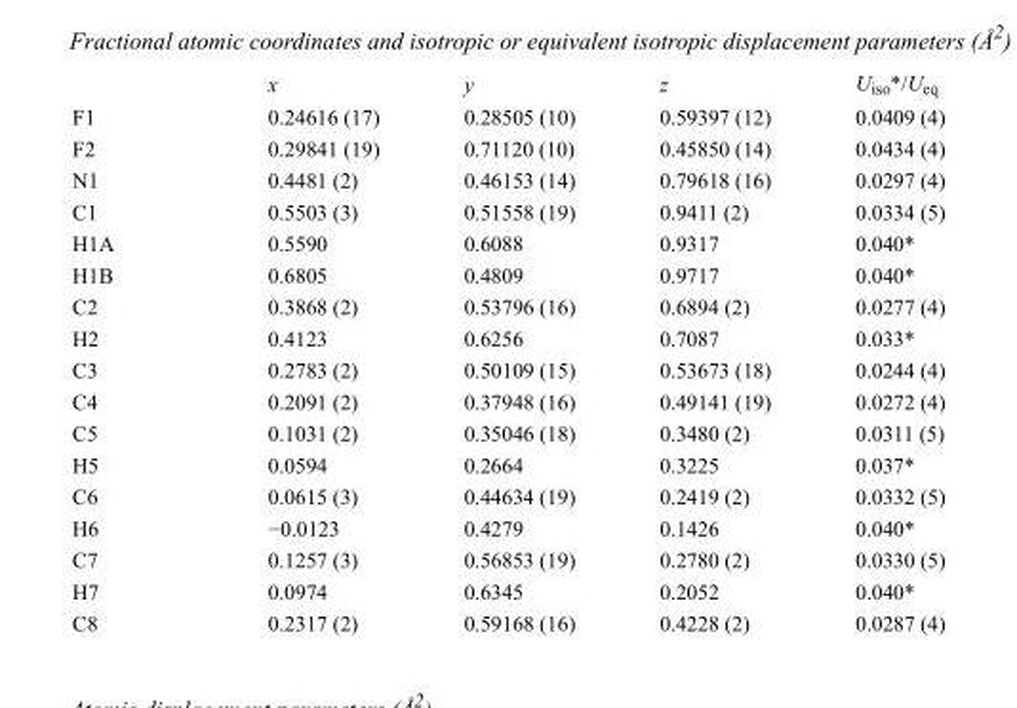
<table><thead><tr><td></td><td>x</td><td>y</td><td>z</td><td>U<sub>iso</sub>*/U<sub>eq</sub></td></tr></thead><tbody><tr><td>F1</td><td>0.24616 (17)</td><td>0.28505 (10)</td><td>0.59397 (12)</td><td>0.0409 (4)</td></tr><tr><td>F2</td><td>0.29841 (19)</td><td>0.71120 (10)</td><td>0.45850 (14)</td><td>0.0434 (4)</td></tr><tr><td>N1</td><td>0.4481 (2)</td><td>0.46153 (14)</td><td>0.79618 (16)</td><td>0.0297 (4)</td></tr><tr><td>C1</td><td>0.5503 (3)</td><td>0.51558 (19)</td><td>0.9411 (2)</td><td>0.0334 (5)</td></tr><tr><td>H1A</td><td>0.5590</td><td>0.6088</td><td>0.9317</td><td>0.040*</td></tr><tr><td>H1B</td><td>0.6805</td><td>0.4809</td><td>0.9717</td><td>0.040*</td></tr><tr><td>C2</td><td>0.3868 (2)</td><td>0.53796 (16)</td><td>0.6894 (2)</td><td>0.0277 (4)</td></tr><tr><td>H2</td><td>0.4123</td><td>0.6256</td><td>0.7087</td><td>0.033*</td></tr><tr><td>C3</td><td>0.2783 (2)</td><td>0.50109 (15)</td><td>0.53673 (18)</td><td>0.0244 (4)</td></tr><tr><td>C4</td><td>0.2091 (2)</td><td>0.37948 (16)</td><td>0.49141 (19)</td><td>0.0272 (4)</td></tr><tr><td>C5</td><td>0.1031 (2)</td><td>0.35046 (18)</td><td>0.3480 (2)</td><td>0.0311 (5)</td></tr><tr><td>H5</td><td>0.0594</td><td>0.2664</td><td>0.3225</td><td>0.037*</td></tr><tr><td>C6</td><td>0.0615 (3)</td><td>0.44634 (19)</td><td>0.2419 (2)</td><td>0.0332 (5)</td></tr><tr><td>H6</td><td>−0.0123</td><td>0.4279</td><td>0.1426</td><td>0.040*</td></tr><tr><td>C7</td><td>0.1257 (3)</td><td>0.56853 (19)</td><td>0.2780 (2)</td><td>0.0330 (5)</td></tr><tr><td>H7</td><td>0.0974</td><td>0.6345</td><td>0.2052</td><td>0.040*</td></tr><tr><td>C8</td><td>0.2317 (2)</td><td>0.59168 (16)</td><td>0.4228 (2)</td><td>0.0287 (4)</td></tr></tbody></table>